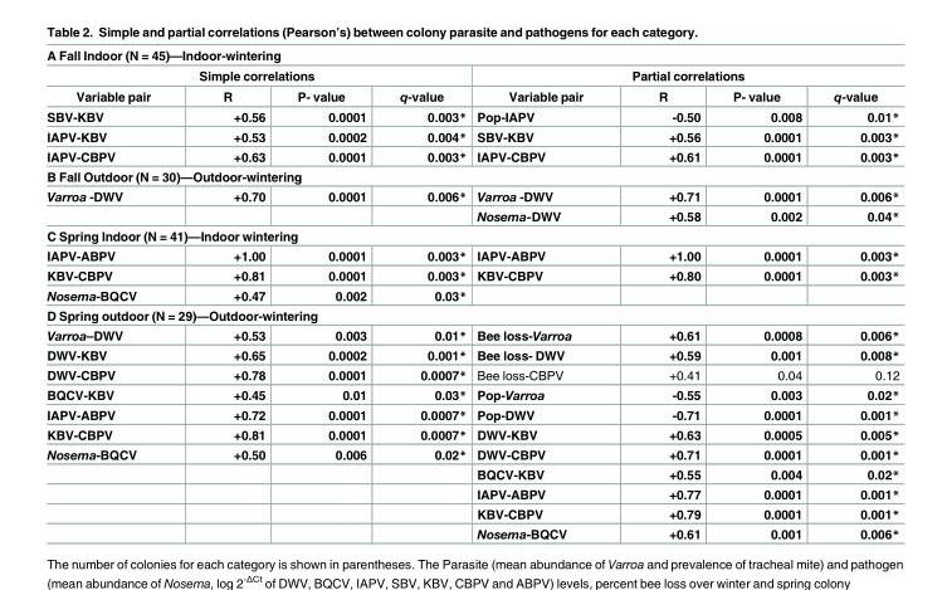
<table><thead><tr><td colspan="8">A Fall Indoor (N = 45)—Indoor-wintering</td></tr><tr><td colspan="4">Simple correlations</td><td colspan="4">Partial correlations</td></tr><tr><td>Variable pair</td><td>R</td><td>P- value</td><td>q-value</td><td>Variable pair</td><td>R</td><td>P- value</td><td>q-value</td></tr></thead><tbody><tr><td>SBV-KBV</td><td>+0.56</td><td>0.0001</td><td>0.003*</td><td>Pop-IAPV</td><td>-0.50</td><td>0.008</td><td>0.01*</td></tr><tr><td>IAPV-KBV</td><td>+0.53</td><td>0.0002</td><td>0.004*</td><td>SBV-KBV</td><td>+0.56</td><td>0.0001</td><td>0.003*</td></tr><tr><td>IAPV-CBPV</td><td>+0.63</td><td>0.0001</td><td>0.003*</td><td>IAPV-CBPV</td><td>+0.61</td><td>0.0001</td><td>0.003*</td></tr><tr><td colspan="8">B Fall Outdoor (N = 30)—Outdoor-wintering</td></tr><tr><td rowspan="2">Varroa -DWV</td><td>+0.70</td><td>0.0001</td><td>0.006*</td><td>Varroa -DWV</td><td>+0.71</td><td>0.0001</td><td>0.006*</td></tr><tr><td></td><td></td><td></td><td>Nosema-DWV</td><td>+0.58</td><td>0.002</td><td>0.04*</td></tr><tr><td colspan="8">C Spring Indoor (N = 41)—Indoor wintering</td></tr><tr><td>IAPV-ABPV</td><td>+1.00</td><td>0.0001</td><td>0.003*</td><td>IAPV-ABPV</td><td>+1.00</td><td>0.0001</td><td>0.003*</td></tr><tr><td>KBV-CBPV</td><td>+0.81</td><td>0.0001</td><td>0.003*</td><td>KBV-CBPV</td><td>+0.80</td><td>0.0001</td><td>0.003*</td></tr><tr><td>Nosema-BQCV</td><td>+0.47</td><td>0.002</td><td>0.03*</td><td></td><td></td><td></td><td></td></tr><tr><td colspan="8">D Spring outdoor (N = 29)—Outdoor-wintering</td></tr><tr><td>Varroa–DWV</td><td>+0.53</td><td>0.003</td><td>0.01*</td><td>Bee loss-Varroa</td><td>+0.61</td><td>0.0008</td><td>0.006*</td></tr><tr><td>DWV-KBV</td><td>+0.65</td><td>0.0002</td><td>0.001*</td><td>Bee loss- DWV</td><td>+0.59</td><td>0.001</td><td>0.008*</td></tr><tr><td>DWV-CBPV</td><td>+0.78</td><td>0.0001</td><td>0.0007*</td><td>Bee loss-CBPV</td><td>+0.41</td><td>0.04</td><td>0.12</td></tr><tr><td>BQCV-KBV</td><td>+0.45</td><td>0.01</td><td>0.03*</td><td>Pop-Varroa</td><td>-0.55</td><td>0.003</td><td>0.02*</td></tr><tr><td>IAPV-ABPV</td><td>+0.72</td><td>0.0001</td><td>0.0007*</td><td>Pop-DWV</td><td>-0.71</td><td>0.0001</td><td>0.001*</td></tr><tr><td>KBV-CBPV</td><td>+0.81</td><td>0.0001</td><td>0.0007*</td><td>DWV-KBV</td><td>+0.63</td><td>0.0005</td><td>0.005*</td></tr><tr><td rowspan="5">Nosema-BQCV</td><td>+0.50</td><td>0.006</td><td>0.02*</td><td>DWV-CBPV</td><td>+0.71</td><td>0.0001</td><td>0.001*</td></tr><tr><td></td><td></td><td></td><td>BQCV-KBV</td><td>+0.55</td><td>0.004</td><td>0.02*</td></tr><tr><td></td><td></td><td></td><td>IAPV-ABPV</td><td>+0.77</td><td>0.0001</td><td>0.001*</td></tr><tr><td></td><td></td><td></td><td>KBV-CBPV</td><td>+0.79</td><td>0.0001</td><td>0.001*</td></tr><tr><td></td><td></td><td></td><td>Nosema-BQCV</td><td>+0.61</td><td>0.001</td><td>0.006*</td></tr></tbody></table>